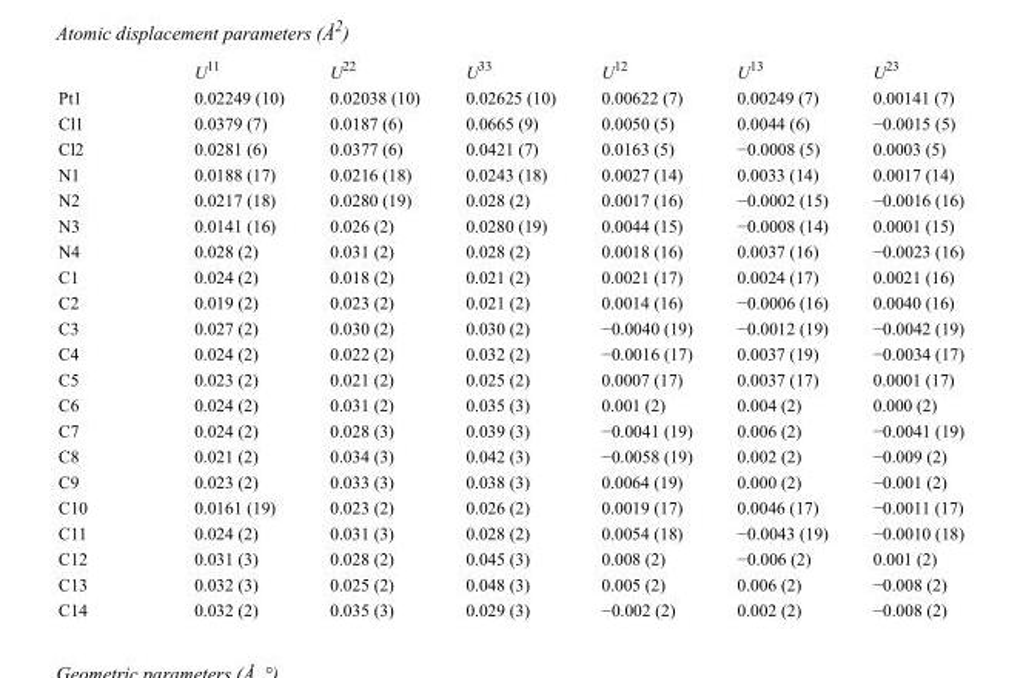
<table><thead><tr><td></td><td>U<sup>11</sup></td><td>U<sup>22</sup></td><td>U<sup>33</sup></td><td>U<sup>12</sup></td><td>U<sup>13</sup></td><td>U<sup>23</sup></td></tr></thead><tbody><tr><td>Pt1</td><td>0.02249 (10)</td><td>0.02038 (10)</td><td>0.02625 (10)</td><td>0.00622 (7)</td><td>0.00249 (7)</td><td>0.00141 (7)</td></tr><tr><td>Cl1</td><td>0.0379 (7)</td><td>0.0187 (6)</td><td>0.0665 (9)</td><td>0.0050 (5)</td><td>0.0044 (6)</td><td>−0.0015 (5)</td></tr><tr><td>Cl2</td><td>0.0281 (6)</td><td>0.0377 (6)</td><td>0.0421 (7)</td><td>0.0163 (5)</td><td>−0.0008 (5)</td><td>0.0003 (5)</td></tr><tr><td>N1</td><td>0.0188 (17)</td><td>0.0216 (18)</td><td>0.0243 (18)</td><td>0.0027 (14)</td><td>0.0033 (14)</td><td>0.0017 (14)</td></tr><tr><td>N2</td><td>0.0217 (18)</td><td>0.0280 (19)</td><td>0.028 (2)</td><td>0.0017 (16)</td><td>−0.0002 (15)</td><td>−0.0016 (16)</td></tr><tr><td>N3</td><td>0.0141 (16)</td><td>0.026 (2)</td><td>0.0280 (19)</td><td>0.0044 (15)</td><td>−0.0008 (14)</td><td>0.0001 (15)</td></tr><tr><td>N4</td><td>0.028 (2)</td><td>0.031 (2)</td><td>0.028 (2)</td><td>0.0018 (16)</td><td>0.0037 (16)</td><td>−0.0023 (16)</td></tr><tr><td>C1</td><td>0.024 (2)</td><td>0.018 (2)</td><td>0.021 (2)</td><td>0.0021 (17)</td><td>0.0024 (17)</td><td>0.0021 (16)</td></tr><tr><td>C2</td><td>0.019 (2)</td><td>0.023 (2)</td><td>0.021 (2)</td><td>0.0014 (16)</td><td>−0.0006 (16)</td><td>0.0040 (16)</td></tr><tr><td>C3</td><td>0.027 (2)</td><td>0.030 (2)</td><td>0.030 (2)</td><td>−0.0040 (19)</td><td>−0.0012 (19)</td><td>−0.0042 (19)</td></tr><tr><td>C4</td><td>0.024 (2)</td><td>0.022 (2)</td><td>0.032 (2)</td><td>−0.0016 (17)</td><td>0.0037 (19)</td><td>−0.0034 (17)</td></tr><tr><td>C5</td><td>0.023 (2)</td><td>0.021 (2)</td><td>0.025 (2)</td><td>0.0007 (17)</td><td>0.0037 (17)</td><td>0.0001 (17)</td></tr><tr><td>C6</td><td>0.024 (2)</td><td>0.031 (2)</td><td>0.035 (3)</td><td>0.001 (2)</td><td>0.004 (2)</td><td>0.000 (2)</td></tr><tr><td>C7</td><td>0.024 (2)</td><td>0.028 (3)</td><td>0.039 (3)</td><td>−0.0041 (19)</td><td>0.006 (2)</td><td>−0.0041 (19)</td></tr><tr><td>C8</td><td>0.021 (2)</td><td>0.034 (3)</td><td>0.042 (3)</td><td>−0.0058 (19)</td><td>0.002 (2)</td><td>−0.009 (2)</td></tr><tr><td>C9</td><td>0.023 (2)</td><td>0.033 (3)</td><td>0.038 (3)</td><td>0.0064 (19)</td><td>0.000 (2)</td><td>−0.001 (2)</td></tr><tr><td>C10</td><td>0.0161 (19)</td><td>0.023 (2)</td><td>0.026 (2)</td><td>0.0019 (17)</td><td>0.0046 (17)</td><td>−0.0011 (17)</td></tr><tr><td>C11</td><td>0.024 (2)</td><td>0.031 (3)</td><td>0.028 (2)</td><td>0.0054 (18)</td><td>−0.0043 (19)</td><td>−0.0010 (18)</td></tr><tr><td>C12</td><td>0.031 (3)</td><td>0.028 (2)</td><td>0.045 (3)</td><td>0.008 (2)</td><td>−0.006 (2)</td><td>0.001 (2)</td></tr><tr><td>C13</td><td>0.032 (3)</td><td>0.025 (2)</td><td>0.048 (3)</td><td>0.005 (2)</td><td>0.006 (2)</td><td>−0.008 (2)</td></tr><tr><td>C14</td><td>0.032 (2)</td><td>0.035 (3)</td><td>0.029 (3)</td><td>−0.002 (2)</td><td>0.002 (2)</td><td>−0.008 (2)</td></tr></tbody></table>